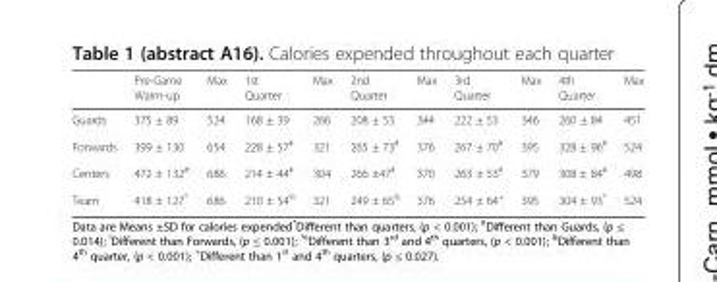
<table><thead><tr><td></td><td>Pre-Game Warm-up</td><td>Max</td><td>1st Quarter</td><td>Max</td><td>2nd Quarter</td><td>Max</td><td>3rd Quarter</td><td>Max</td><td>4th Quarter</td><td>Max</td></tr></thead><tbody><tr><td>Guards</td><td>375 ± 89</td><td>524</td><td>168 ± 39</td><td>266</td><td>208 ± 53</td><td>344</td><td>222 ± 53</td><td>346</td><td>260 ± 84</td><td>451</td></tr><tr><td>Forwards</td><td>399 ± 130</td><td>654</td><td>228 ± 57<sup>#</sup></td><td>321</td><td>265 ± 73<sup>#</sup></td><td>376</td><td>267 ± 70<sup>#</sup></td><td>395</td><td>328 ± 96<sup>#</sup></td><td>524</td></tr><tr><td>Centers</td><td>472 ± 132<sup>#!</sup></td><td>686</td><td>214 ± 44<sup>#</sup></td><td>304</td><td>266 ±47<sup>#</sup></td><td>370</td><td>263 ± 53<sup>#</sup></td><td>379</td><td>308 ± 84<sup>#</sup></td><td>498</td></tr><tr><td>Team</td><td>418 ± 127*</td><td>686</td><td>210 ± 54<sup>%</sup></td><td>321</td><td>249 ± 65<sup>&amp;</sup></td><td>376</td><td>254 ± 64<sup>+</sup></td><td>395</td><td>304 ± 93*</td><td>524</td></tr></tbody></table>